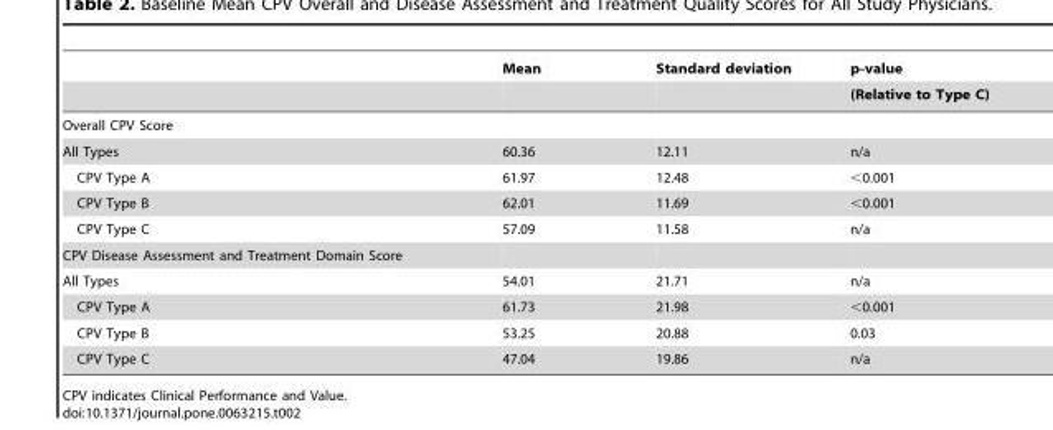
<table><thead><tr><td rowspan="2"></td><td rowspan="2">Mean</td><td rowspan="2">Standard deviation</td><td rowspan="2">p-value (Relative to Type C)</td></tr><tr></tr></thead><tbody><tr><td colspan="4">Overall CPV Score</td></tr><tr><td>All Types</td><td>60.36</td><td>12.11</td><td>n/a</td></tr><tr><td>CPV Type A</td><td>61.97</td><td>12.48</td><td>&lt;0.001</td></tr><tr><td>CPV Type B</td><td>62.01</td><td>11.69</td><td>&lt;0.001</td></tr><tr><td>CPV Type C</td><td>57.09</td><td>11.58</td><td>n/a</td></tr><tr><td colspan="4">CPV Disease Assessment and Treatment Domain Score</td></tr><tr><td>All Types</td><td>54.01</td><td>21.71</td><td>n/a</td></tr><tr><td>CPV Type A</td><td>61.73</td><td>21.98</td><td>&lt;0.001</td></tr><tr><td>CPV Type B</td><td>53.25</td><td>20.88</td><td>0.03</td></tr><tr><td>CPV Type C</td><td>47.04</td><td>19.86</td><td>n/a</td></tr></tbody></table>